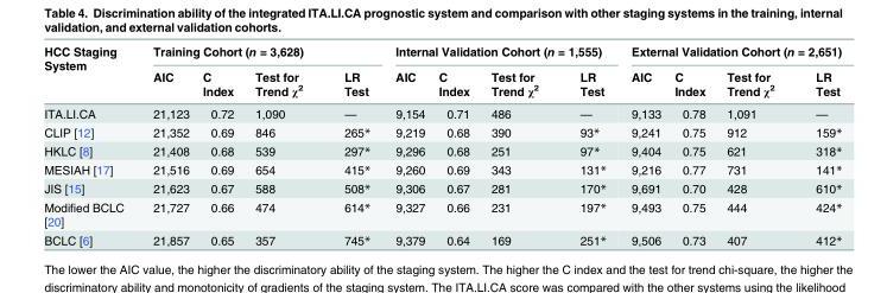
<table><thead><tr><td rowspan="2">HCC Staging System</td><td colspan="4">Training Cohort (n = 3,628)</td><td colspan="4">Internal Validation Cohort (n = 1,555)</td><td colspan="4">External Validation Cohort (n = 2,651)</td></tr><tr><td>AIC</td><td>C Index</td><td>Test for Trend χ<sup>2</sup></td><td>LR Test</td><td>AIC</td><td>C Index</td><td>Test for Trend χ<sup>2</sup></td><td>LR Test</td><td>AIC</td><td>C Index</td><td>Test for Trend χ<sup>2</sup></td><td>LR Test</td></tr></thead><tbody><tr><td>ITA.LI.CA</td><td>21,123</td><td>0.72</td><td>1,090</td><td>—</td><td>9,154</td><td>0.71</td><td>486</td><td>—</td><td>9,133</td><td>0.78</td><td>1,091</td><td>—</td></tr><tr><td>CLIP [12]</td><td>21,352</td><td>0.69</td><td>846</td><td>265*</td><td>9,219</td><td>0.68</td><td>390</td><td>93*</td><td>9,241</td><td>0.75</td><td>912</td><td>159*</td></tr><tr><td>HKLC [8]</td><td>21,408</td><td>0.68</td><td>539</td><td>297*</td><td>9,296</td><td>0.68</td><td>251</td><td>97*</td><td>9,404</td><td>0.75</td><td>621</td><td>318*</td></tr><tr><td>MESIAH [17]</td><td>21,516</td><td>0.69</td><td>654</td><td>415*</td><td>9,260</td><td>0.69</td><td>343</td><td>131*</td><td>9,216</td><td>0.77</td><td>731</td><td>141*</td></tr><tr><td>JIS [15]</td><td>21,623</td><td>0.67</td><td>588</td><td>508*</td><td>9,306</td><td>0.67</td><td>281</td><td>170*</td><td>9,691</td><td>0.70</td><td>428</td><td>610*</td></tr><tr><td>Modified BCLC [20]</td><td>21,727</td><td>0.66</td><td>474</td><td>614*</td><td>9,327</td><td>0.66</td><td>231</td><td>197*</td><td>9,493</td><td>0.75</td><td>444</td><td>424*</td></tr><tr><td>BCLC [6]</td><td>21,857</td><td>0.65</td><td>357</td><td>745*</td><td>9,379</td><td>0.64</td><td>169</td><td>251*</td><td>9,506</td><td>0.73</td><td>407</td><td>412*</td></tr></tbody></table>